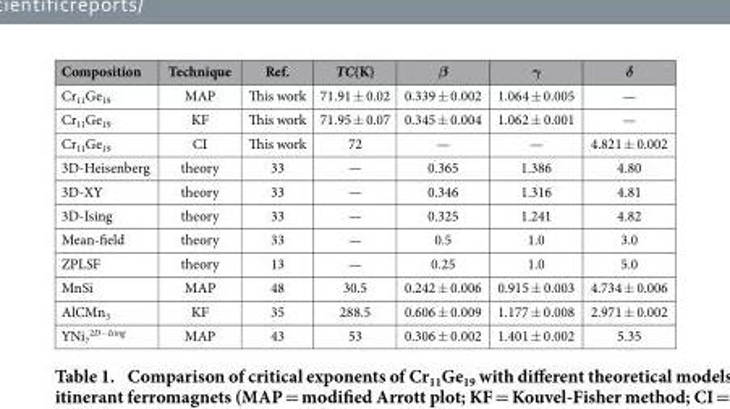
<table><thead><tr><td>Composition</td><td>Technique</td><td>Ref.</td><td>TC(K)</td><td>β</td><td>γ</td><td>δ</td></tr></thead><tbody><tr><td>Cr<sub>11</sub>Ge<sub>19</sub></td><td>MAP</td><td>This work</td><td>71.91 ± 0.02</td><td>0.339 ± 0.002</td><td>1.064 ± 0.005</td><td>—</td></tr><tr><td>Cr<sub>11</sub>Ge<sub>19</sub></td><td>KF</td><td>This work</td><td>71.95 ± 0.07</td><td>0.345 ± 0.004</td><td>1.062 ± 0.001</td><td>—</td></tr><tr><td>Cr<sub>11</sub>Ge<sub>19</sub></td><td>CI</td><td>This work</td><td>72</td><td>—</td><td>—</td><td>4.821 ± 0.002</td></tr><tr><td>3D-Heisenberg</td><td>theory</td><td>33</td><td>—</td><td>0.365</td><td>1.386</td><td>4.80</td></tr><tr><td>3D-XY</td><td>theory</td><td>33</td><td>—</td><td>0.346</td><td>1.316</td><td>4.81</td></tr><tr><td>3D-Ising</td><td>theory</td><td>33</td><td>—</td><td>0.325</td><td>1.241</td><td>4.82</td></tr><tr><td>Mean-field</td><td>theory</td><td>33</td><td>—</td><td>0.5</td><td>1.0</td><td>3.0</td></tr><tr><td>ZPLSF</td><td>theory</td><td>13</td><td>—</td><td>0.25</td><td>1.0</td><td>5.0</td></tr><tr><td>MnSi</td><td>MAP</td><td>48</td><td>30.5</td><td>0.242 ± 0.006</td><td>0.915 ± 0.003</td><td>4.734 ± 0.006</td></tr><tr><td>AlCMn<sub>3</sub></td><td>KF</td><td>35</td><td>288.5</td><td>0.606 ± 0.009</td><td>1.177 ± 0.008</td><td>2.971 ± 0.002</td></tr><tr><td>YNi<sub>7</sub> <sup>2D−Ising</sup></td><td>MAP</td><td>43</td><td>53</td><td>0.306 ± 0.002</td><td>1.401 ± 0.002</td><td>5.35</td></tr></tbody></table>